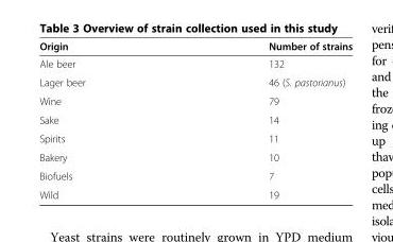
<table><thead><tr><td>Origin</td><td>Number of strains</td></tr></thead><tbody><tr><td>Ale beer</td><td>132</td></tr><tr><td>Lager beer</td><td>46 (S. pastorianus)</td></tr><tr><td>Wine</td><td>79</td></tr><tr><td>Sake</td><td>14</td></tr><tr><td>Spirits</td><td>11</td></tr><tr><td>Bakery</td><td>10</td></tr><tr><td>Biofuels</td><td>7</td></tr><tr><td>Wild</td><td>19</td></tr></tbody></table>